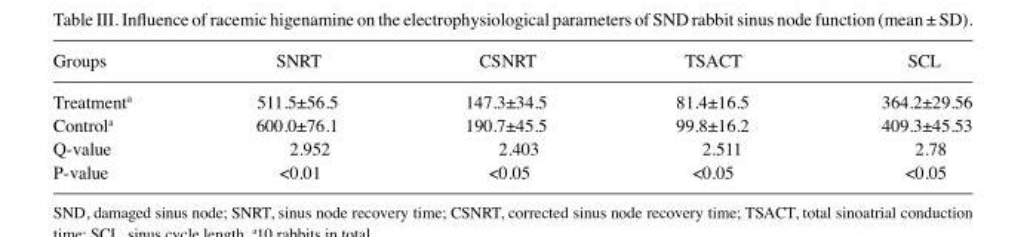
<table><thead><tr><td>Groups</td><td>SNRT</td><td>CSNRT</td><td>TSACT</td><td>SCL</td></tr></thead><tbody><tr><td>Treatment<sup>a</sup></td><td>511.5±56.5</td><td>147.3±34.5</td><td>81.4±16.5</td><td>364.2±29.56</td></tr><tr><td>Control<sup>a</sup></td><td>600.0±76.1</td><td>190.7±45.5</td><td>99.8±16.2</td><td>409.3±45.53</td></tr><tr><td>Q-value</td><td>2.952</td><td>2.403</td><td>2.511</td><td>2.78</td></tr><tr><td>P-value</td><td>&lt;0.01</td><td>&lt;0.05</td><td>&lt;0.05</td><td>&lt;0.05</td></tr></tbody></table>